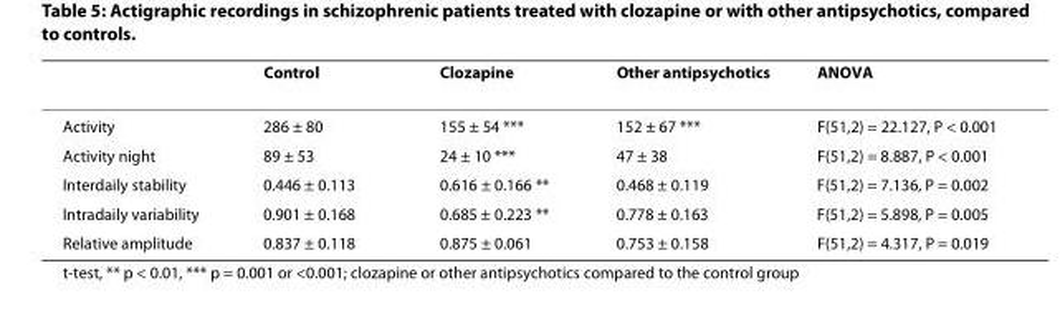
<table><thead><tr><td></td><td>Control</td><td>Clozapine</td><td>Other antipsychotics</td><td>ANOVA</td></tr></thead><tbody><tr><td>Activity</td><td>286 ± 80</td><td>155 ± 54 ***</td><td>152 ± 67 ***</td><td>F(51,2) = 22.127, P &lt; 0.001</td></tr><tr><td>Activity night</td><td>89 ± 53</td><td>24 ± 10 ***</td><td>47 ± 38</td><td>F(51,2) = 8.887, P &lt; 0.001</td></tr><tr><td>Interdaily stability</td><td>0.446 ± 0.113</td><td>0.616 ± 0.166 **</td><td>0.468 ± 0.119</td><td>F(51,2) = 7.136, P = 0.002</td></tr><tr><td>Intradaily variability</td><td>0.901 ± 0.168</td><td>0.685 ± 0.223 **</td><td>0.778 ± 0.163</td><td>F(51,2) = 5.898, P = 0.005</td></tr><tr><td>Relative amplitude</td><td>0.837 ± 0.118</td><td>0.875 ± 0.061</td><td>0.753 ± 0.158</td><td>F(51,2) = 4.317, P = 0.019</td></tr></tbody></table>